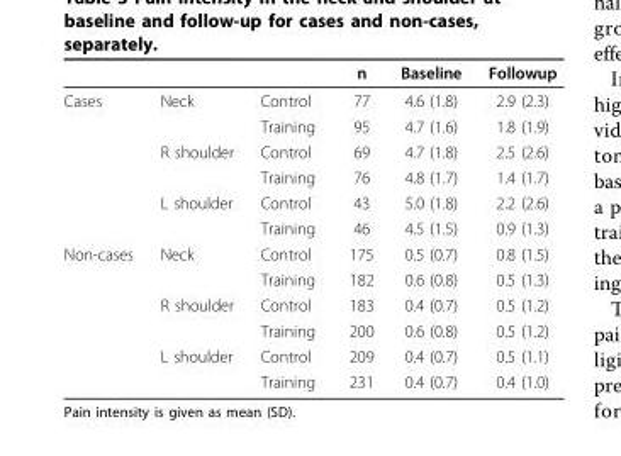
<table><thead><tr><td></td><td></td><td></td><td>n</td><td>Baseline</td><td>Followup</td></tr></thead><tbody><tr><td rowspan="6">Cases</td><td>Neck</td><td>Control</td><td>77</td><td>4.6 (1.8)</td><td>2.9 (2.3)</td></tr><tr><td></td><td>Training</td><td>95</td><td>4.7 (1.6)</td><td>1.8 (1.9)</td></tr><tr><td>R shoulder</td><td>Control</td><td>69</td><td>4.7 (1.8)</td><td>2.5 (2.6)</td></tr><tr><td></td><td>Training</td><td>76</td><td>4.8 (1.7)</td><td>1.4 (1.7)</td></tr><tr><td>L shoulder</td><td>Control</td><td>43</td><td>5.0 (1.8)</td><td>2.2 (2.6)</td></tr><tr><td></td><td>Training</td><td>46</td><td>4.5 (1.5)</td><td>0.9 (1.3)</td></tr><tr><td rowspan="6">Non-cases</td><td>Neck</td><td>Control</td><td>175</td><td>0.5 (0.7)</td><td>0.8 (1.5)</td></tr><tr><td></td><td>Training</td><td>182</td><td>0.6 (0.8)</td><td>0.5 (1.3)</td></tr><tr><td>R shoulder</td><td>Control</td><td>183</td><td>0.4 (0.7)</td><td>0.5 (1.2)</td></tr><tr><td></td><td>Training</td><td>200</td><td>0.6 (0.8)</td><td>0.5 (1.2)</td></tr><tr><td>L shoulder</td><td>Control</td><td>209</td><td>0.4 (0.7)</td><td>0.5 (1.1)</td></tr><tr><td></td><td>Training</td><td>231</td><td>0.4 (0.7)</td><td>0.4 (1.0)</td></tr></tbody></table>